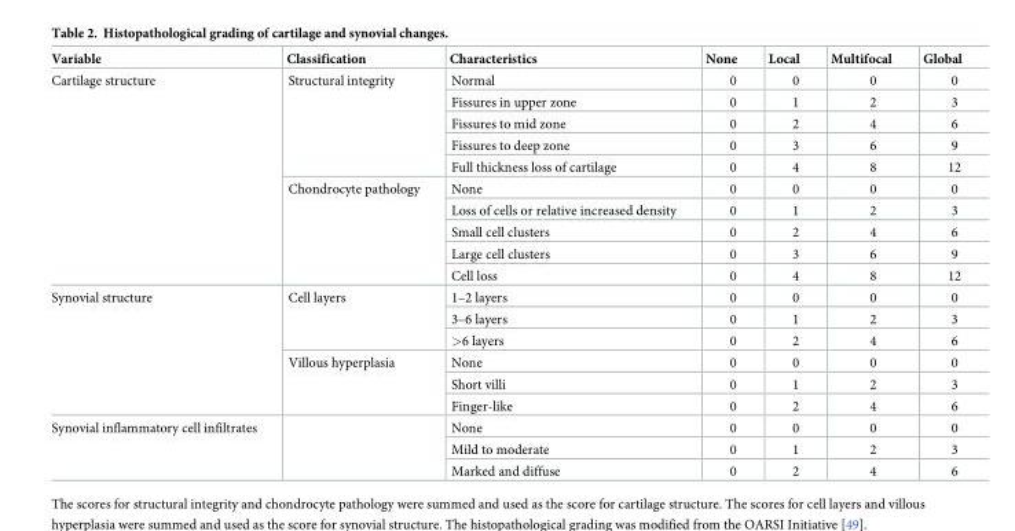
<table><thead><tr><td>Variable</td><td>Classification</td><td>Characteristics</td><td>None</td><td>Local</td><td>Multifocal</td><td>Global</td></tr></thead><tbody><tr><td rowspan="10">Cartilage structure</td><td rowspan="5">Structural integrity</td><td>Normal</td><td>0</td><td>0</td><td>0</td><td>0</td></tr><tr><td>Fissures in upper zone</td><td>0</td><td>1</td><td>2</td><td>3</td></tr><tr><td>Fissures to mid zone</td><td>0</td><td>2</td><td>4</td><td>6</td></tr><tr><td>Fissures to deep zone</td><td>0</td><td>3</td><td>6</td><td>9</td></tr><tr><td>Full thickness loss of cartilage</td><td>0</td><td>4</td><td>8</td><td>12</td></tr><tr><td rowspan="5">Chondrocyte pathology</td><td>None</td><td>0</td><td>0</td><td>0</td><td>0</td></tr><tr><td>Loss of cells or relative increased density</td><td>0</td><td>1</td><td>2</td><td>3</td></tr><tr><td>Small cell clusters</td><td>0</td><td>2</td><td>4</td><td>6</td></tr><tr><td>Large cell clusters</td><td>0</td><td>3</td><td>6</td><td>9</td></tr><tr><td>Cell loss</td><td>0</td><td>4</td><td>8</td><td>12</td></tr><tr><td rowspan="6">Synovial structure</td><td rowspan="3">Cell layers</td><td>1–2 layers</td><td>0</td><td>0</td><td>0</td><td>0</td></tr><tr><td>3–6 layers</td><td>0</td><td>1</td><td>2</td><td>3</td></tr><tr><td>&gt;6 layers</td><td>0</td><td>2</td><td>4</td><td>6</td></tr><tr><td rowspan="3">Villous hyperplasia</td><td>None</td><td>0</td><td>0</td><td>0</td><td>0</td></tr><tr><td>Short villi</td><td>0</td><td>1</td><td>2</td><td>3</td></tr><tr><td>Finger-like</td><td>0</td><td>2</td><td>4</td><td>6</td></tr><tr><td rowspan="3">Synovial inflammatory cell infiltrates</td><td rowspan="3"></td><td>None</td><td>0</td><td>0</td><td>0</td><td>0</td></tr><tr><td>Mild to moderate</td><td>0</td><td>1</td><td>2</td><td>3</td></tr><tr><td>Marked and diffuse</td><td>0</td><td>2</td><td>4</td><td>6</td></tr></tbody></table>